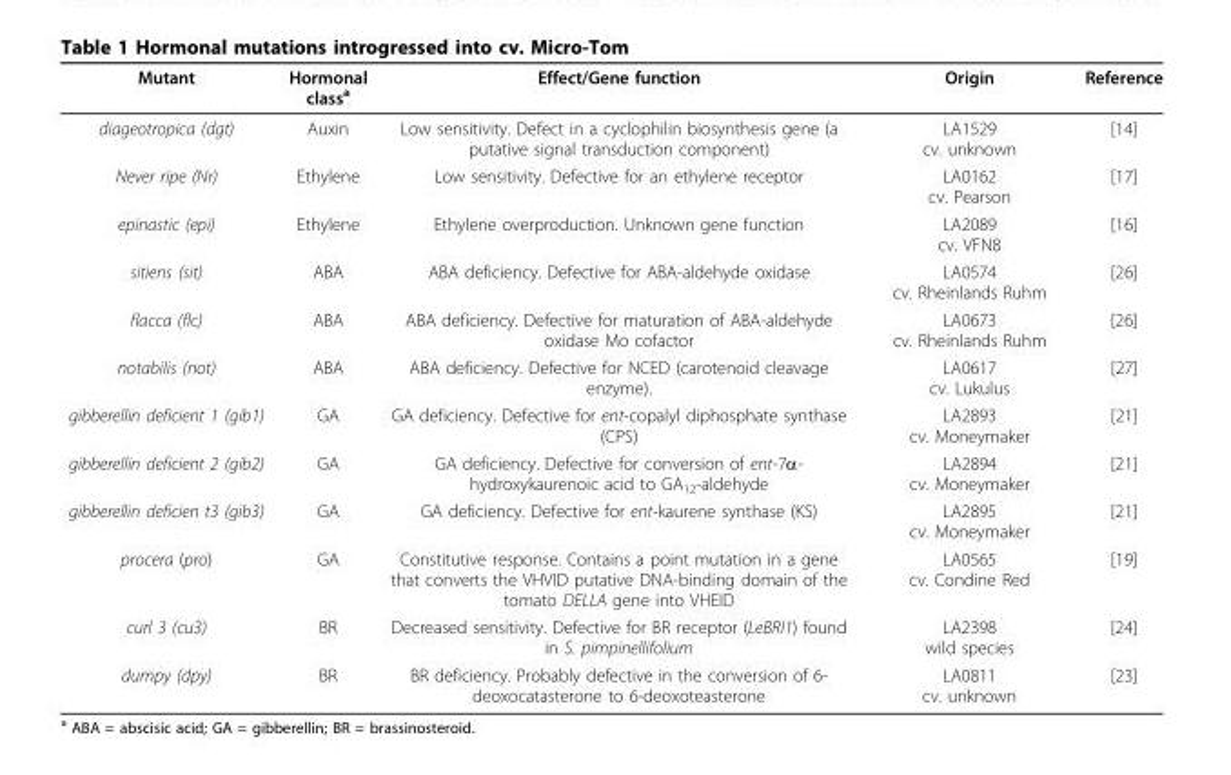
<table><thead><tr><td>Mutant</td><td>Hormonal class<sup>a</sup></td><td>Effect/Gene function</td><td>Origin</td><td>Reference</td></tr></thead><tbody><tr><td>diageotropica (dgt)</td><td>Auxin</td><td>Low sensitivity. Defect in a cyclophilin biosynthesis gene (a putative signal transduction component)</td><td>LA1529 cv. unknown</td><td>[14]</td></tr><tr><td>Never ripe (Nr)</td><td>Ethylene</td><td>Low sensitivity. Defective for an ethylene receptor</td><td>LA0162 cv. Pearson</td><td>[17]</td></tr><tr><td>epinastic (epi)</td><td>Ethylene</td><td>Ethylene overproduction. Unknown gene function</td><td>LA2089 cv. VFN8</td><td>[16]</td></tr><tr><td>sitiens (sit)</td><td>ABA</td><td>ABA deficiency. Defective for ABA-aldehyde oxidase</td><td>LA0574 cv. Rheinlands Ruhm</td><td>[26]</td></tr><tr><td>flacca (flc)</td><td>ABA</td><td>ABA deficiency. Defective for maturation of ABA-aldehyde oxidase Mo cofactor</td><td>LA0673 cv. Rheinlands Ruhm</td><td>[26]</td></tr><tr><td>notabilis (not)</td><td>ABA</td><td>ABA deficiency. Defective for NCED (carotenoid cleavage enzyme).</td><td>LA0617 cv. Lukulus</td><td>[27]</td></tr><tr><td>gibberellin deficient 1 (gib1)</td><td>GA</td><td>GA deficiency. Defective for ent-copalyl diphosphate synthase (CPS)</td><td>LA2893 cv. Moneymaker</td><td>[21]</td></tr><tr><td>gibberellin deficient 2 (gib2)</td><td>GA</td><td>GA deficiency. Defective for conversion of ent-7α- hydroxykaurenoic acid to GA<sub>12</sub>-aldehyde</td><td>LA2894 cv. Moneymaker</td><td>[21]</td></tr><tr><td>gibberellin deficien t3 (gib3)</td><td>GA</td><td>GA deficiency. Defective for ent-kaurene synthase (KS)</td><td>LA2895 cv. Moneymaker</td><td>[21]</td></tr><tr><td>procera (pro)</td><td>GA</td><td>Constitutive response. Contains a point mutation in a gene that converts the VHVID putative DNA-binding domain of the tomato DELLA gene into VHEID</td><td>LA0565 cv. Condine Red</td><td>[19]</td></tr><tr><td>curl 3 (cu3)</td><td>BR</td><td>Decreased sensitivity. Defective for BR receptor (LeBRI1) found in S. pimpinellifolium</td><td>LA2398 wild species</td><td>[24]</td></tr><tr><td>dumpy (dpy)</td><td>BR</td><td>BR deficiency. Probably defective in the conversion of 6- deoxocatasterone to 6-deoxoteasterone</td><td>LA0811 cv. unknown</td><td>[23]</td></tr></tbody></table>